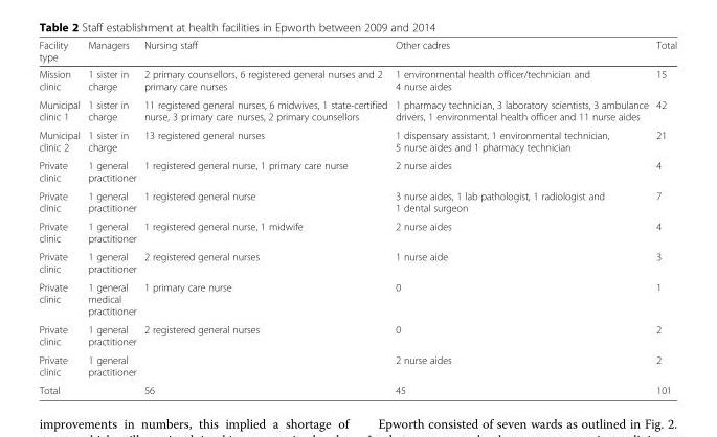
<table><thead><tr><td>Facility type</td><td>Managers</td><td>Nursing staff</td><td>Other cadres</td><td>Total</td></tr></thead><tbody><tr><td>Mission clinic</td><td>1 sister in charge</td><td>2 primary counsellors, 6 registered general nurses and 2 primary care nurses</td><td>1 environmental health officer/technician and 4 nurse aides</td><td>15</td></tr><tr><td>Municipal clinic 1</td><td>1 sister in charge</td><td>11 registered general nurses, 6 midwives, 1 state-certified nurse, 3 primary care nurses, 2 primary counsellors</td><td>1 pharmacy technician, 3 laboratory scientists, 3 ambulance drivers, 1 environmental health officer and 11 nurse aides</td><td>42</td></tr><tr><td>Municipal clinic 2</td><td>1 sister in charge</td><td>13 registered general nurses</td><td>1 dispensary assistant, 1 environmental technician, 5 nurse aides and 1 pharmacy technician</td><td>21</td></tr><tr><td>Private clinic</td><td>1 general practitioner</td><td>1 registered general nurse, 1 primary care nurse</td><td>2 nurse aides</td><td>4</td></tr><tr><td>Private clinic</td><td>1 general practitioner</td><td>1 registered general nurse</td><td>3 nurse aides, 1 lab pathologist, 1 radiologist and 1 dental surgeon</td><td>7</td></tr><tr><td>Private clinic</td><td>1 general practitioner</td><td>1 registered general nurse, 1 midwife</td><td>2 nurse aides</td><td>4</td></tr><tr><td>Private clinic</td><td>1 general practitioner</td><td>2 registered general nurses</td><td>1 nurse aide</td><td>3</td></tr><tr><td>Private clinic</td><td>1 general medical practitioner</td><td>1 primary care nurse</td><td>0</td><td>1</td></tr><tr><td>Private clinic</td><td>1 general practitioner</td><td>2 registered general nurses</td><td>0</td><td>2</td></tr><tr><td>Private clinic</td><td>1 general practitioner</td><td></td><td>2 nurse aides</td><td>2</td></tr><tr><td>Total</td><td></td><td>56</td><td>45</td><td>101</td></tr></tbody></table>